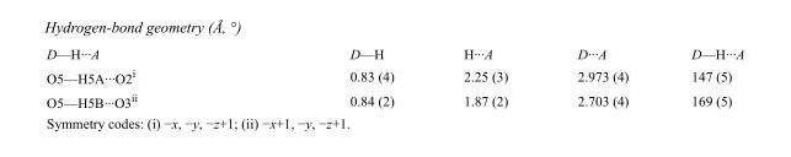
<table><tbody><tr><td>D—H···A</td><td>D—H</td><td>H···A</td><td>D···A</td><td>D—H···A</td></tr><tr><td>O5—H5A···O2<sup>i</sup></td><td>0.83 (4)</td><td>2.25 (3)</td><td>2.973 (4)</td><td>147 (5)</td></tr><tr><td>O5—H5B···O3<sup>ii</sup></td><td>0.84 (2)</td><td>1.87 (2)</td><td>2.703 (4)</td><td>169 (5)</td></tr></tbody></table>